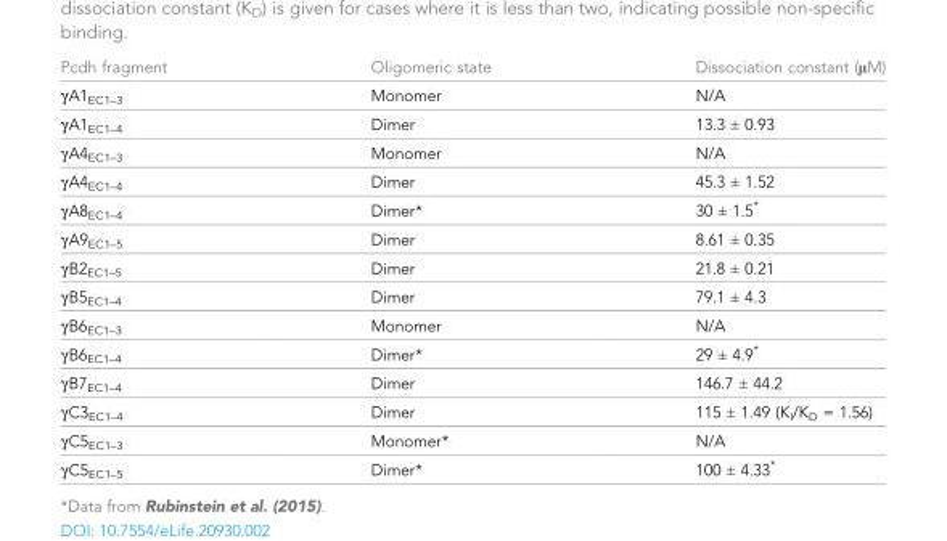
<table><thead><tr><td>Pcdh fragment</td><td>Oligomeric state</td><td>Dissociation constant (μM)</td></tr></thead><tbody><tr><td>γA1<sub>EC1–3</sub></td><td>Monomer</td><td>N/A</td></tr><tr><td>γA1<sub>EC1–4</sub></td><td>Dimer</td><td>13.3 ± 0.93</td></tr><tr><td>γA4<sub>EC1–3</sub></td><td>Monomer</td><td>N/A</td></tr><tr><td>γA4<sub>EC1–4</sub></td><td>Dimer</td><td>45.3 ± 1.52</td></tr><tr><td>γA8<sub>EC1–4</sub></td><td>Dimer*</td><td>30 ± 1.5*</td></tr><tr><td>γA9<sub>EC1–5</sub></td><td>Dimer</td><td>8.61 ± 0.35</td></tr><tr><td>γB2<sub>EC1–5</sub></td><td>Dimer</td><td>21.8 ± 0.21</td></tr><tr><td>γB5<sub>EC1–4</sub></td><td>Dimer</td><td>79.1 ± 4.3</td></tr><tr><td>γB6<sub>EC1–3</sub></td><td>Monomer</td><td>N/A</td></tr><tr><td>γB6<sub>EC1–4</sub></td><td>Dimer*</td><td>29 ± 4.9*</td></tr><tr><td>γB7<sub>EC1–4</sub></td><td>Dimer</td><td>146.7 ± 44.2</td></tr><tr><td>γC3<sub>EC1–4</sub></td><td>Dimer</td><td>115 ± 1.49 (K<sub>I</sub>/K<sub>D</sub> = 1.56)</td></tr><tr><td>γC5<sub>EC1–3</sub></td><td>Monomer*</td><td>N/A</td></tr><tr><td>γC5<sub>EC1–5</sub></td><td>Dimer*</td><td>100 ± 4.33*</td></tr></tbody></table>